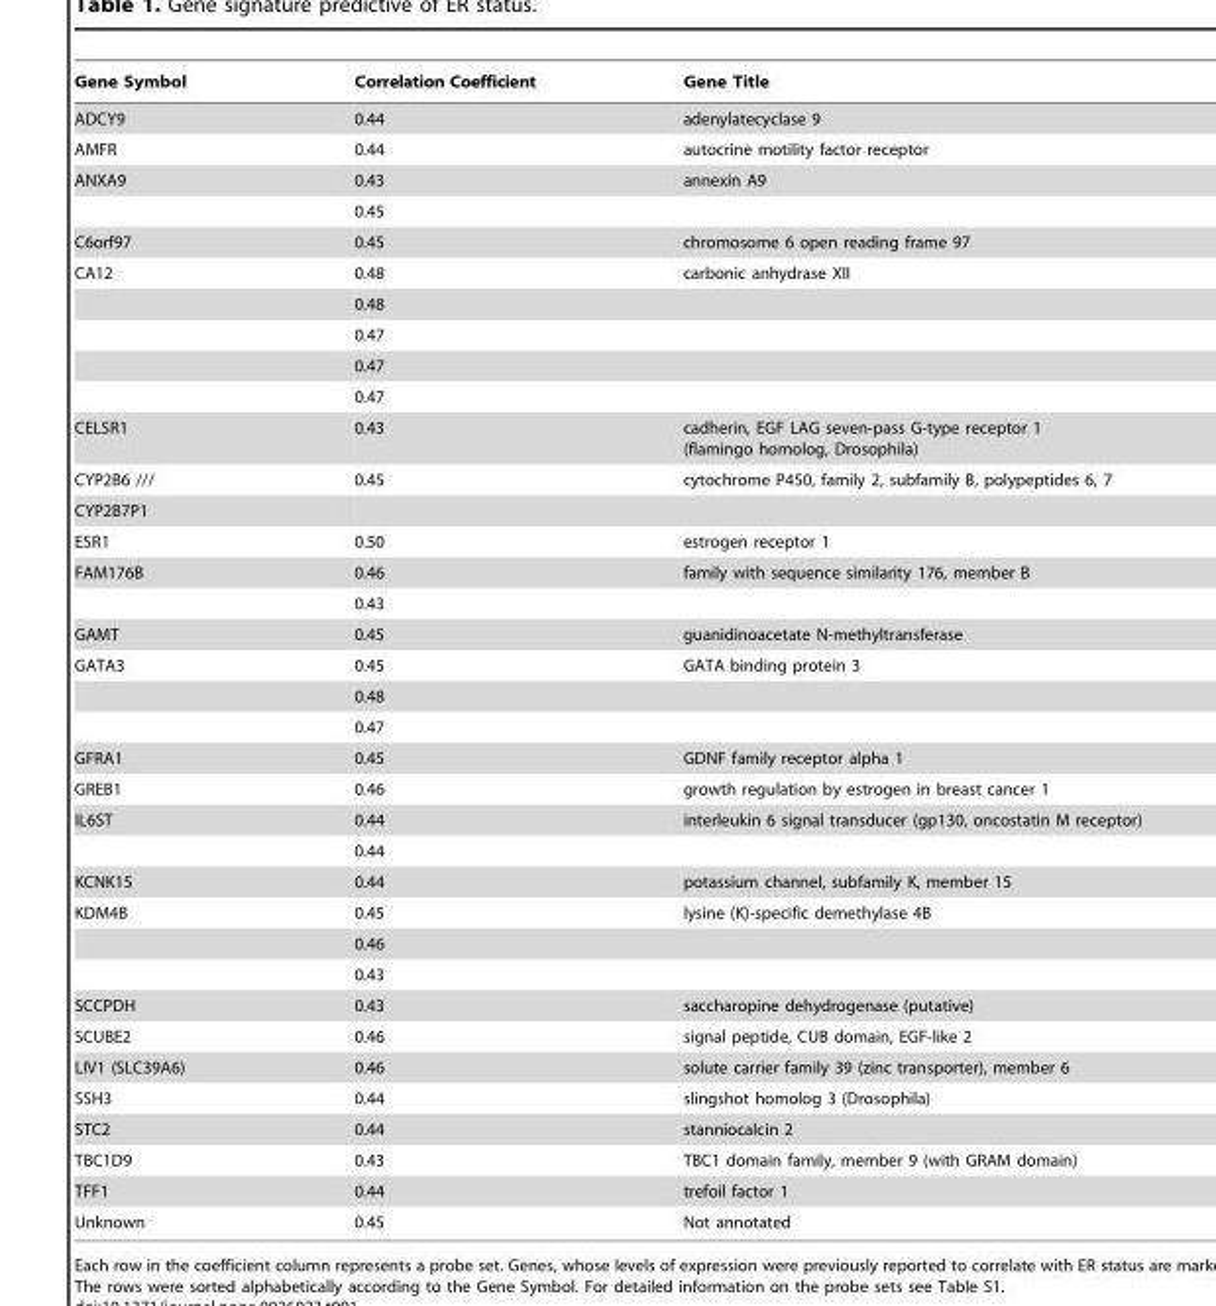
<table><thead><tr><td>Gene Symbol</td><td>Correlation Coefficient</td><td>Gene Title</td></tr></thead><tbody><tr><td>ADCY9</td><td>0.44</td><td>adenylatecyclase 9</td></tr><tr><td>AMFR</td><td>0.44</td><td>autocrine motility factor receptor</td></tr><tr><td rowspan="2">ANXA9</td><td>0.43</td><td>annexin A9</td></tr><tr><td>0.45</td><td></td></tr><tr><td>C6orf97</td><td>0.45</td><td>chromosome 6 open reading frame 97</td></tr><tr><td rowspan="5">CA12</td><td>0.48</td><td>carbonic anhydrase XII</td></tr><tr><td>0.48</td><td></td></tr><tr><td>0.47</td><td></td></tr><tr><td>0.47</td><td></td></tr><tr><td>0.47</td><td></td></tr><tr><td>CELSR1</td><td>0.43</td><td>cadherin, EGF LAG seven-pass G-type receptor 1 (flamingo homolog, Drosophila)</td></tr><tr><td>CYP2B6 ///</td><td>0.45</td><td>cytochrome P450, family 2, subfamily B, polypeptides 6, 7</td></tr><tr><td colspan="3">CYP2B7P1</td></tr><tr><td>ESR1</td><td>0.50</td><td>estrogen receptor 1</td></tr><tr><td rowspan="2">FAM176B</td><td>0.46</td><td>family with sequence similarity 176, member B</td></tr><tr><td>0.43</td><td></td></tr><tr><td>GAMT</td><td>0.45</td><td>guanidinoacetate N-methyltransferase</td></tr><tr><td rowspan="3">GATA3</td><td>0.45</td><td>GATA binding protein 3</td></tr><tr><td>0.48</td><td></td></tr><tr><td>0.47</td><td></td></tr><tr><td>GFRA1</td><td>0.45</td><td>GDNF family receptor alpha 1</td></tr><tr><td>GREB1</td><td>0.46</td><td>growth regulation by estrogen in breast cancer 1</td></tr><tr><td rowspan="2">IL6ST</td><td>0.44</td><td>interleukin 6 signal transducer (gp130, oncostatin M receptor)</td></tr><tr><td>0.44</td><td></td></tr><tr><td>KCNK15</td><td>0.44</td><td>potassium channel, subfamily K, member 15</td></tr><tr><td rowspan="3">KDM4B</td><td>0.45</td><td>lysine (K)-specific demethylase 4B</td></tr><tr><td>0.46</td><td></td></tr><tr><td>0.43</td><td></td></tr><tr><td>SCCPDH</td><td>0.43</td><td>saccharopine dehydrogenase (putative)</td></tr><tr><td>SCUBE2</td><td>0.46</td><td>signal peptide, CUB domain, EGF-like 2</td></tr><tr><td>LIV1 (SLC39A6)</td><td>0.46</td><td>solute carrier family 39 (zinc transporter), member 6</td></tr><tr><td>SSH3</td><td>0.44</td><td>slingshot homolog 3 (Drosophila)</td></tr><tr><td>STC2</td><td>0.44</td><td>stanniocalcin 2</td></tr><tr><td>TBC1D9</td><td>0.43</td><td>TBC1 domain family, member 9 (with GRAM domain)</td></tr><tr><td>TFF1</td><td>0.44</td><td>trefoil factor 1</td></tr><tr><td>Unknown</td><td>0.45</td><td>Not annotated</td></tr></tbody></table>